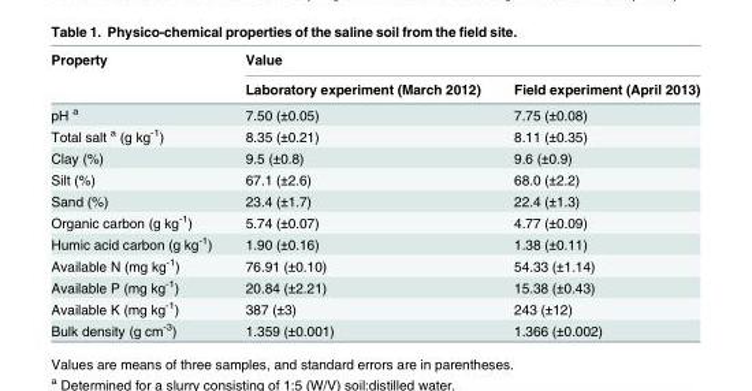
<table><thead><tr><td rowspan="2">Property</td><td colspan="2">Value</td></tr><tr><td>Laboratory experiment (March 2012)</td><td>Field experiment (April 2013)</td></tr></thead><tbody><tr><td>pH <sup>a</sup></td><td>7.50 (±0.05)</td><td>7.75 (±0.08)</td></tr><tr><td>Total salt <sup>a</sup> (g kg<sup>-1</sup>)</td><td>8.35 (±0.21)</td><td>8.11 (±0.35)</td></tr><tr><td>Clay (%)</td><td>9.5 (±0.8)</td><td>9.6 (±0.9)</td></tr><tr><td>Silt (%)</td><td>67.1 (±2.6)</td><td>68.0 (±2.2)</td></tr><tr><td>Sand (%)</td><td>23.4 (±1.7)</td><td>22.4 (±1.3)</td></tr><tr><td>Organic carbon (g kg<sup>-1</sup>)</td><td>5.74 (±0.07)</td><td>4.77 (±0.09)</td></tr><tr><td>Humic acid carbon (g kg<sup>-1</sup>)</td><td>1.90 (±0.16)</td><td>1.38 (±0.11)</td></tr><tr><td>Available N (mg kg<sup>-1</sup>)</td><td>76.91 (±0.10)</td><td>54.33 (±1.14)</td></tr><tr><td>Available P (mg kg<sup>-1</sup>)</td><td>20.84 (±2.21)</td><td>15.38 (±0.43)</td></tr><tr><td>Available K (mg kg<sup>-1</sup>)</td><td>387 (±3)</td><td>243 (±12)</td></tr><tr><td>Bulk density (g cm<sup>-3</sup>)</td><td>1.359 (±0.001)</td><td>1.366 (±0.002)</td></tr></tbody></table>